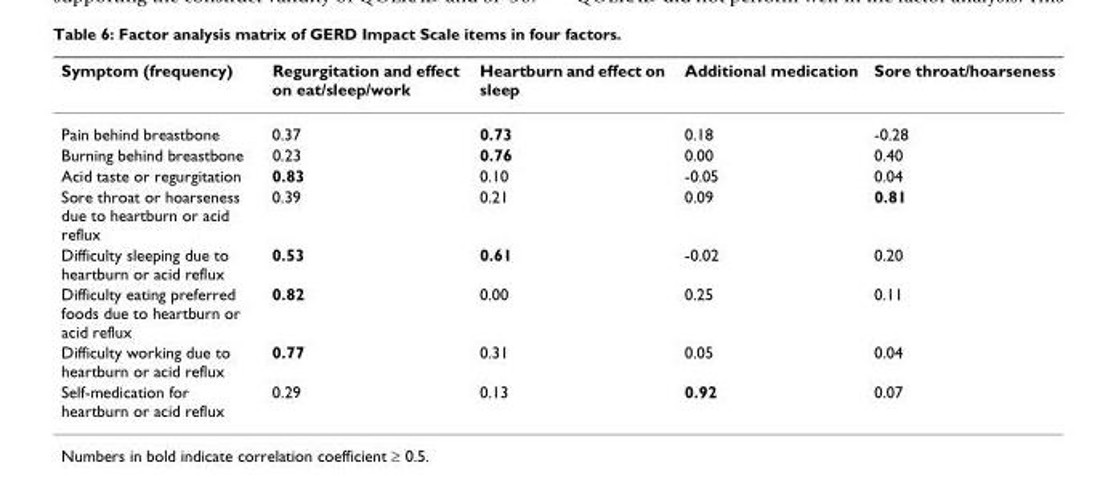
<table><thead><tr><td>Symptom (frequency)</td><td>Regurgitation and effect on eat/sleep/work</td><td>Heartburn and effect on sleep</td><td>Additional medication</td><td>Sore throat/hoarseness</td></tr></thead><tbody><tr><td>Pain behind breastbone</td><td>0.37</td><td>0.73</td><td>0.18</td><td>-0.28</td></tr><tr><td>Burning behind breastbone</td><td>0.23</td><td>0.76</td><td>0.00</td><td>0.40</td></tr><tr><td>Acid taste or regurgitation</td><td>0.83</td><td>0.10</td><td>-0.05</td><td>0.04</td></tr><tr><td>Sore throat or hoarseness due to heartburn or acid reflux</td><td>0.39</td><td>0.21</td><td>0.09</td><td>0.81</td></tr><tr><td>Difficulty sleeping due to heartburn or acid reflux</td><td>0.53</td><td>0.61</td><td>-0.02</td><td>0.20</td></tr><tr><td>Difficulty eating preferred foods due to heartburn or acid reflux</td><td>0.82</td><td>0.00</td><td>0.25</td><td>0.11</td></tr><tr><td>Difficulty working due to heartburn or acid reflux</td><td>0.77</td><td>0.31</td><td>0.05</td><td>0.04</td></tr><tr><td>Self-medication for heartburn or acid reflux</td><td>0.29</td><td>0.13</td><td>0.92</td><td>0.07</td></tr></tbody></table>